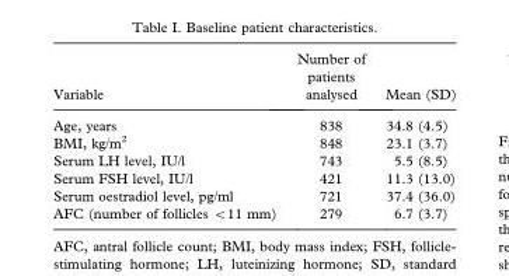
<table><thead><tr><td>Variable</td><td>Number of patients analysed</td><td>Mean (SD)</td></tr></thead><tbody><tr><td>Age, years</td><td>838</td><td>34.8 (4.5)</td></tr><tr><td>BMI, kg/m<sup>2</sup></td><td>848</td><td>23.1 (3.7)</td></tr><tr><td>Serum LH level, IU/l</td><td>743</td><td>5.5 (8.5)</td></tr><tr><td>Serum FSH level, IU/l</td><td>421</td><td>11.3 (13.0)</td></tr><tr><td>Serum oestradiol level, pg/ml</td><td>721</td><td>37.4 (36.0)</td></tr><tr><td>AFC (number of follicles &lt;11 mm)</td><td>279</td><td>6.7 (3.7)</td></tr></tbody></table>